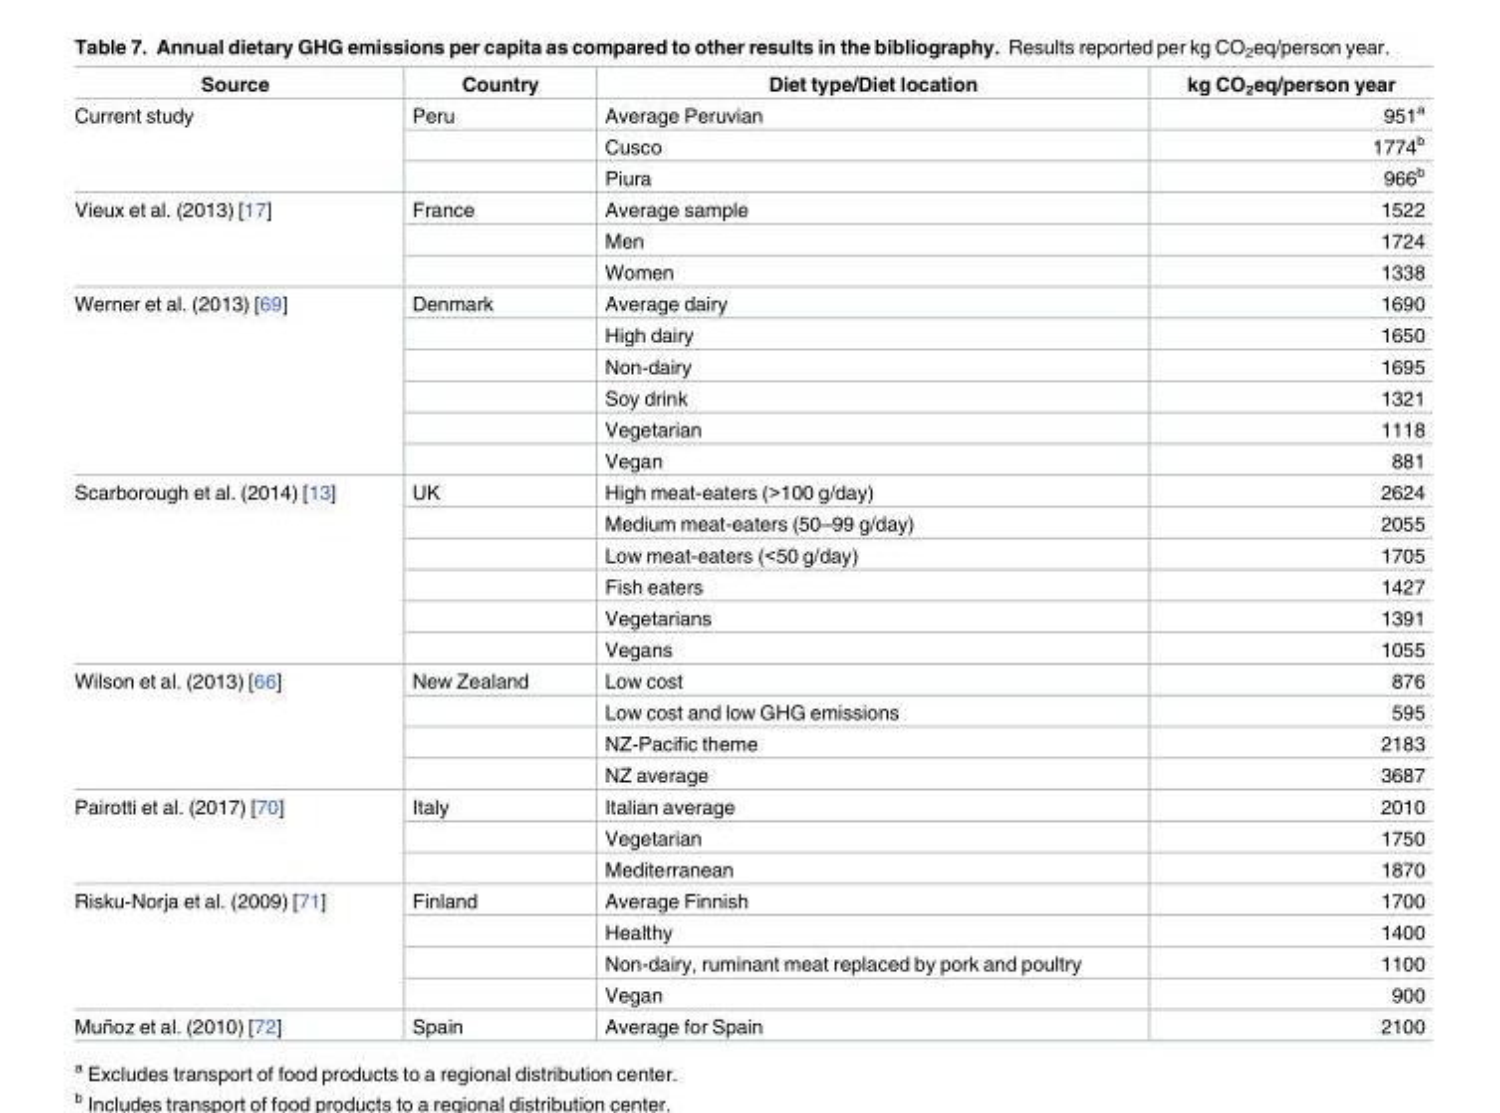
<table><thead><tr><td>Source</td><td>Country</td><td>Diet type/Diet location</td><td>kg CO<sub>2</sub>eq/person year</td></tr></thead><tbody><tr><td rowspan="3">Current study</td><td>Peru</td><td>Average Peruvian</td><td>951<sup>a</sup></td></tr><tr><td></td><td>Cusco</td><td>1774<sup>b</sup></td></tr><tr><td></td><td>Piura</td><td>966<sup>b</sup></td></tr><tr><td rowspan="3">Vieux et al. (2013) [17]</td><td>France</td><td>Average sample</td><td>1522</td></tr><tr><td></td><td>Men</td><td>1724</td></tr><tr><td></td><td>Women</td><td>1338</td></tr><tr><td rowspan="6">Werner et al. (2013) [69]</td><td>Denmark</td><td>Average dairy</td><td>1690</td></tr><tr><td></td><td>High dairy</td><td>1650</td></tr><tr><td></td><td>Non-dairy</td><td>1695</td></tr><tr><td></td><td>Soy drink</td><td>1321</td></tr><tr><td></td><td>Vegetarian</td><td>1118</td></tr><tr><td></td><td>Vegan</td><td>881</td></tr><tr><td rowspan="6">Scarborough et al. (2014) [13]</td><td>UK</td><td>High meat-eaters (&gt;100 g/day)</td><td>2624</td></tr><tr><td></td><td>Medium meat-eaters (50–99 g/day)</td><td>2055</td></tr><tr><td></td><td>Low meat-eaters (&lt;50 g/day)</td><td>1705</td></tr><tr><td></td><td>Fish eaters</td><td>1427</td></tr><tr><td></td><td>Vegetarians</td><td>1391</td></tr><tr><td></td><td>Vegans</td><td>1055</td></tr><tr><td rowspan="4">Wilson et al. (2013) [66]</td><td>New Zealand</td><td>Low cost</td><td>876</td></tr><tr><td></td><td>Low cost and low GHG emissions</td><td>595</td></tr><tr><td></td><td>NZ-Pacific theme</td><td>2183</td></tr><tr><td></td><td>NZ average</td><td>3687</td></tr><tr><td rowspan="3">Pairotti et al. (2017) [70]</td><td>Italy</td><td>Italian average</td><td>2010</td></tr><tr><td></td><td>Vegetarian</td><td>1750</td></tr><tr><td></td><td>Mediterranean</td><td>1870</td></tr><tr><td rowspan="4">Risku-Norja et al. (2009) [71]</td><td>Finland</td><td>Average Finnish</td><td>1700</td></tr><tr><td></td><td>Healthy</td><td>1400</td></tr><tr><td></td><td>Non-dairy, ruminant meat replaced by pork and poultry</td><td>1100</td></tr><tr><td></td><td>Vegan</td><td>900</td></tr><tr><td>Muñoz et al. (2010) [72]</td><td>Spain</td><td>Average for Spain</td><td>2100</td></tr></tbody></table>